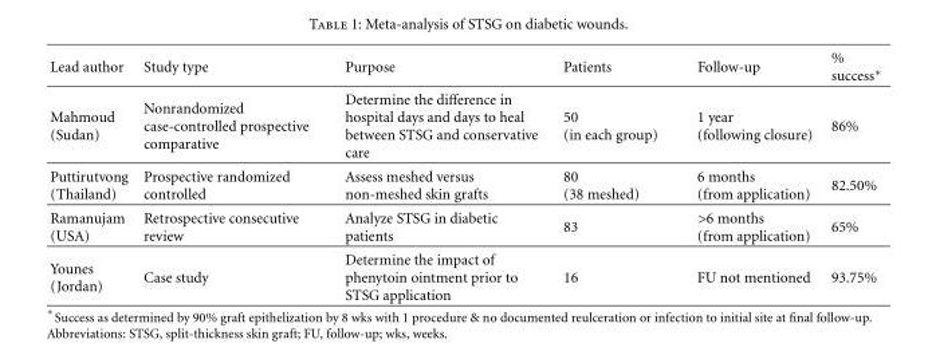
<table><thead><tr><td>Lead author</td><td>Study type</td><td>Purpose</td><td>Patients</td><td>Follow-up</td><td>% success∗</td></tr></thead><tbody><tr><td>Mahmoud (Sudan)</td><td>Nonrandomized case-controlled prospective comparative</td><td>Determine the difference in hospital days and days to heal between STSG and conservative care</td><td>50 (in each group)</td><td>1 year (following closure)</td><td>86%</td></tr><tr><td>Puttirutvong (Thailand)</td><td>Prospective randomized controlled</td><td>Assess meshed versus non-meshed skin grafts</td><td>80 (38 meshed)</td><td>6 months (from application)</td><td>82.50%</td></tr><tr><td>Ramanujam (USA)</td><td>Retrospective consecutive review</td><td>Analyze STSG in diabetic patients</td><td>83</td><td>&gt;6 months (from application)</td><td>65%</td></tr><tr><td>Younes (Jordan)</td><td>Case study</td><td>Determine the impact of phenytoin ointment prior to STSG application</td><td>16</td><td>FU not mentioned</td><td>93.75%</td></tr></tbody></table>